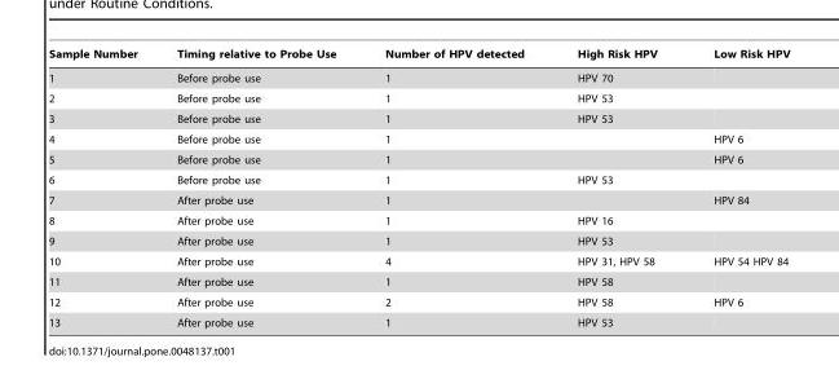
<table><thead><tr><td>Sample Number</td><td>Timing relative to Probe Use</td><td>Number of HPV detected</td><td>High Risk HPV</td><td>Low Risk HPV</td></tr></thead><tbody><tr><td>1</td><td>Before probe use</td><td>1</td><td>HPV 70</td><td></td></tr><tr><td>2</td><td>Before probe use</td><td>1</td><td>HPV 53</td><td></td></tr><tr><td>3</td><td>Before probe use</td><td>1</td><td>HPV 53</td><td></td></tr><tr><td>4</td><td>Before probe use</td><td>1</td><td></td><td>HPV 6</td></tr><tr><td>5</td><td>Before probe use</td><td>1</td><td></td><td>HPV 6</td></tr><tr><td>6</td><td>Before probe use</td><td>1</td><td>HPV 53</td><td></td></tr><tr><td>7</td><td>After probe use</td><td>1</td><td></td><td>HPV 84</td></tr><tr><td>8</td><td>After probe use</td><td>1</td><td>HPV 16</td><td></td></tr><tr><td>9</td><td>After probe use</td><td>1</td><td>HPV 53</td><td></td></tr><tr><td>10</td><td>After probe use</td><td>4</td><td>HPV 31, HPV 58</td><td>HPV 54 HPV 84</td></tr><tr><td>11</td><td>After probe use</td><td>1</td><td>HPV 58</td><td></td></tr><tr><td>12</td><td>After probe use</td><td>2</td><td>HPV 58</td><td>HPV 6</td></tr><tr><td>13</td><td>After probe use</td><td>1</td><td>HPV 53</td><td></td></tr></tbody></table>